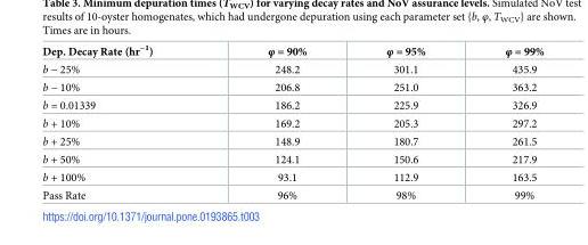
<table><thead><tr><td>Dep. Decay Rate (hr<sup>−1</sup>)</td><td>φ = 90%</td><td>φ = 95%</td><td>φ = 99%</td></tr></thead><tbody><tr><td>b − 25%</td><td>248.2</td><td>301.1</td><td>435.9</td></tr><tr><td>b − 10%</td><td>206.8</td><td>251.0</td><td>363.2</td></tr><tr><td>b = 0.01339</td><td>186.2</td><td>225.9</td><td>326.9</td></tr><tr><td>b + 10%</td><td>169.2</td><td>205.3</td><td>297.2</td></tr><tr><td>b + 25%</td><td>148.9</td><td>180.7</td><td>261.5</td></tr><tr><td>b + 50%</td><td>124.1</td><td>150.6</td><td>217.9</td></tr><tr><td>b + 100%</td><td>93.1</td><td>112.9</td><td>163.5</td></tr><tr><td>Pass Rate</td><td>96%</td><td>98%</td><td>99%</td></tr></tbody></table>